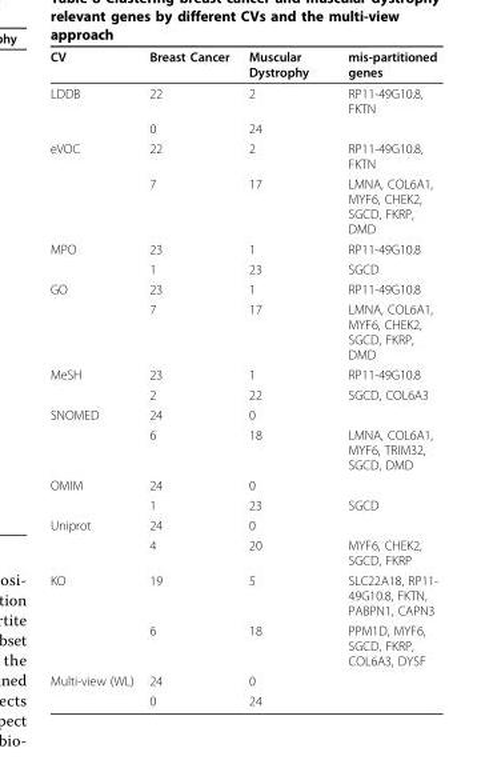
<table><thead><tr><td>CV</td><td>Breast Cancer</td><td>Muscular Dystrophy</td><td>mis-partitioned genes</td></tr></thead><tbody><tr><td rowspan="2">LDDB</td><td>22</td><td>2</td><td>RP11-49G10.8, FKTN</td></tr><tr><td>0</td><td>24</td><td></td></tr><tr><td rowspan="2">eVOC</td><td>22</td><td>2</td><td>RP11-49G10.8, FKTN</td></tr><tr><td>7</td><td>17</td><td>LMNA, COL6A1, MYF6, CHEK2, SGCD, FKRP, DMD</td></tr><tr><td rowspan="2">MPO</td><td>23</td><td>1</td><td>RP11-49G10.8</td></tr><tr><td>1</td><td>23</td><td>SGCD</td></tr><tr><td rowspan="2">GO</td><td>23</td><td>1</td><td>RP11-49G10.8</td></tr><tr><td>7</td><td>17</td><td>LMNA, COL6A1, MYF6, CHEK2, SGCD, FKRP, DMD</td></tr><tr><td rowspan="2">MeSH</td><td>23</td><td>1</td><td>RP11-49G10.8</td></tr><tr><td>2</td><td>22</td><td>SGCD, COL6A3</td></tr><tr><td rowspan="2">SNOMED</td><td>24</td><td>0</td><td></td></tr><tr><td>6</td><td>18</td><td>LMNA, COL6A1, MYF6, TRIM32, SGCD, DMD</td></tr><tr><td rowspan="2">OMIM</td><td>24</td><td>0</td><td></td></tr><tr><td>1</td><td>23</td><td>SGCD</td></tr><tr><td rowspan="2">Uniprot</td><td>24</td><td>0</td><td></td></tr><tr><td>4</td><td>20</td><td>MYF6, CHEK2, SGCD, FKRP</td></tr><tr><td rowspan="2">KO</td><td>19</td><td>5</td><td>SLC22A18, RP11- 49G10.8, FKTN, PABPN1, CAPN3</td></tr><tr><td>6</td><td>18</td><td>PPM1D, MYF6, SGCD, FKRP, COL6A3, DYSF</td></tr><tr><td rowspan="2">Multi-view (WL)</td><td>24</td><td>0</td><td></td></tr><tr><td>0</td><td>24</td><td></td></tr></tbody></table>